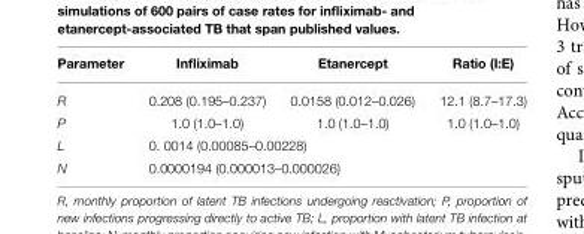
<table><thead><tr><td>Parameter</td><td>Infliximab</td><td>Etanercept</td><td>Ratio (I:E)</td></tr></thead><tbody><tr><td>R</td><td>0.208 (0.195–0.237)</td><td>0.0158 (0.012–0.026)</td><td>12.1 (8.7–17.3)</td></tr><tr><td>P</td><td>1.0 (1.0–1.0)</td><td>1.0 (1.0–1.0)</td><td>1.0 (1.0–1.0)</td></tr><tr><td>L</td><td colspan="2">0. 0014 (0.00085–0.00228)</td><td></td></tr><tr><td>N</td><td colspan="2">0.0000194 (0.000013–0.000026)</td><td></td></tr></tbody></table>